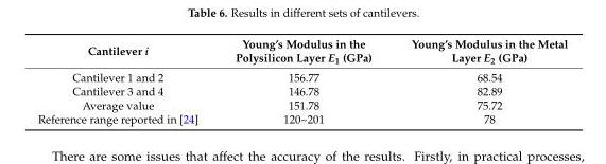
<table><thead><tr><td>Cantilever i</td><td>Young’s Modulus in the Polysilicon Layer E<sub>1</sub> (GPa)</td><td>Young’s Modulus in the Metal Layer E<sub>2</sub> (GPa)</td></tr></thead><tbody><tr><td>Cantilever 1 and 2</td><td>156.77</td><td>68.54</td></tr><tr><td>Cantilever 3 and 4</td><td>146.78</td><td>82.89</td></tr><tr><td>Average value</td><td>151.78</td><td>75.72</td></tr><tr><td>Reference range reported in [24]</td><td>120~201</td><td>78</td></tr></tbody></table>